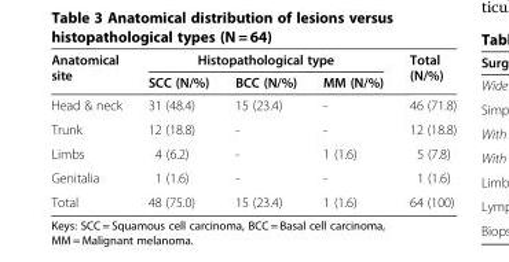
<table><thead><tr><td rowspan="2">Anatomical site</td><td colspan="3">Histopathological type</td><td rowspan="2">Total (N/%)</td></tr><tr><td>SCC (N/%)</td><td>BCC (N/%)</td><td>MM (N/%)</td></tr></thead><tbody><tr><td>Head &amp; neck</td><td>31 (48.4)</td><td>15 (23.4)</td><td>-</td><td>46 (71.8)</td></tr><tr><td>Trunk</td><td>12 (18.8)</td><td>-</td><td>-</td><td>12 (18.8)</td></tr><tr><td>Limbs</td><td>4 (6.2)</td><td>-</td><td>1 (1.6)</td><td>5 (7.8)</td></tr><tr><td>Genitalia</td><td>1 (1.6)</td><td>-</td><td>-</td><td>1 (1.6)</td></tr><tr><td>Total</td><td>48 (75.0)</td><td>15 (23.4)</td><td>1 (1.6)</td><td>64 (100)</td></tr></tbody></table>